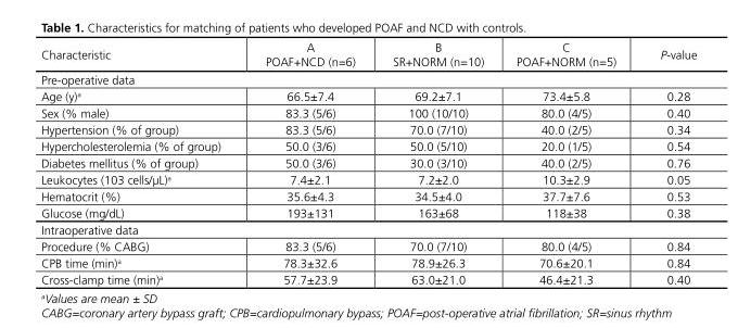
<table><thead><tr><td>Characteristic</td><td>A POAF+NCD (n=6)</td><td>B SR+NORM (n=10)</td><td>C POAF+NORM (n=5)</td><td>P-value</td></tr></thead><tbody><tr><td colspan="5">Pre-operative data</td></tr><tr><td>Age (y)<sup>a</sup></td><td>66.5±7.4</td><td>69.2±7.1</td><td>73.4±5.8</td><td>0.28</td></tr><tr><td>Sex (% male)</td><td>83.3 (5/6)</td><td>100 (10/10)</td><td>80.0 (4/5)</td><td>0.40</td></tr><tr><td>Hypertension (% of group)</td><td>83.3 (5/6)</td><td>70.0 (7/10)</td><td>40.0 (2/5)</td><td>0.34</td></tr><tr><td>Hypercholesterolemia (% of group)</td><td>50.0 (3/6)</td><td>50.0 (5/10)</td><td>20.0 (1/5)</td><td>0.54</td></tr><tr><td>Diabetes mellitus (% of group)</td><td>50.0 (3/6)</td><td>30.0 (3/10)</td><td>40.0 (2/5)</td><td>0.76</td></tr><tr><td>Leukocytes (103 cells/μL)<sup>a</sup></td><td>7.4±2.1</td><td>7.2±2.0</td><td>10.3±2.9</td><td>0.05</td></tr><tr><td>Hematocrit (%)</td><td>35.6±4.3</td><td>34.5±4.0</td><td>37.7±7.6</td><td>0.53</td></tr><tr><td>Glucose (mg/dL)</td><td>193±131</td><td>163±68</td><td>118±38</td><td>0.38</td></tr><tr><td colspan="5">Intraoperative data</td></tr><tr><td>Procedure (% CABG)</td><td>83.3 (5/6)</td><td>70.0 (7/10)</td><td>80.0 (4/5)</td><td>0.84</td></tr><tr><td>CPB time (min)<sup>a</sup></td><td>78.3±32.6</td><td>78.9±26.3</td><td>70.6±20.1</td><td>0.84</td></tr><tr><td>Cross-clamp time (min)<sup>a</sup></td><td>57.7±23.9</td><td>63.0±21.0</td><td>46.4±21.3</td><td>0.40</td></tr></tbody></table>